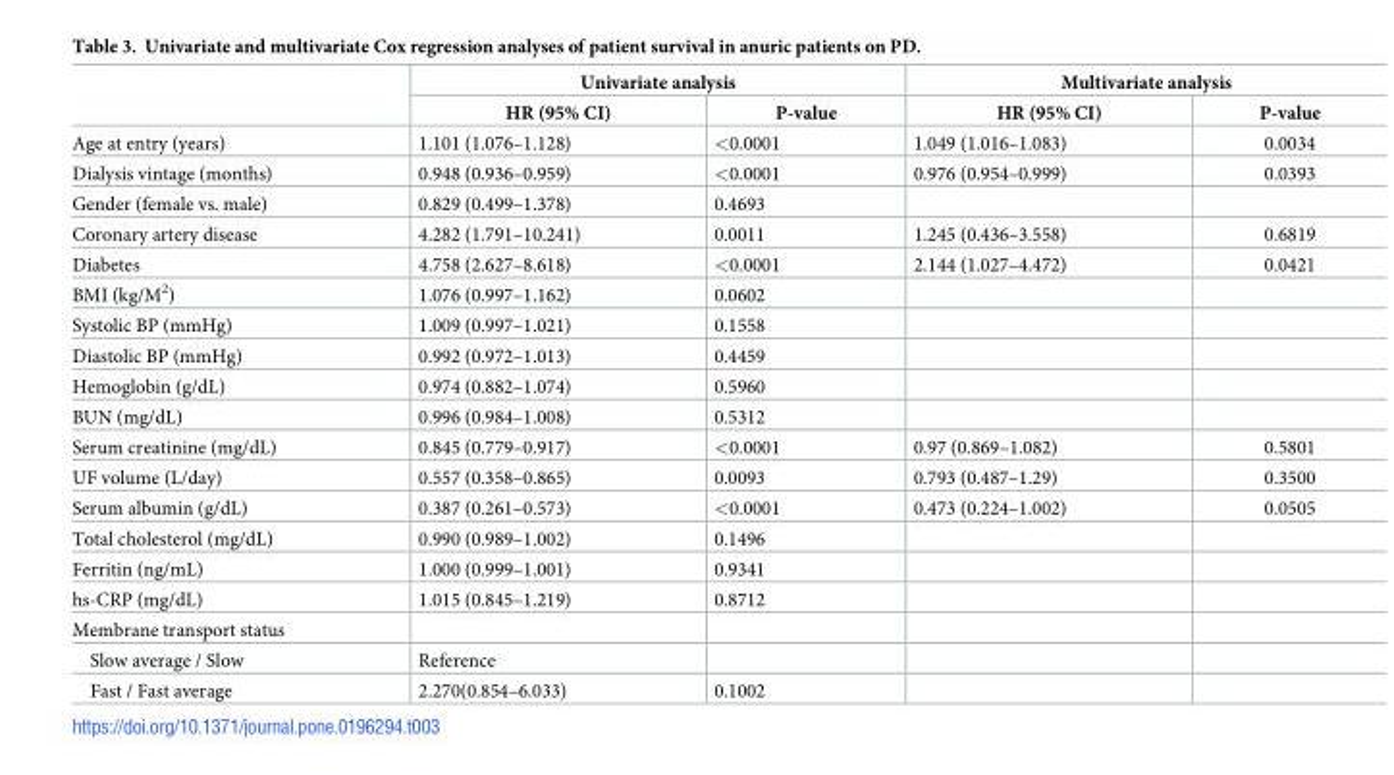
<table><thead><tr><td rowspan="2"></td><td colspan="2">Univariate analysis</td><td colspan="2">Multivariate analysis</td></tr><tr><td>HR (95% CI)</td><td>P-value</td><td>HR (95% CI)</td><td>P-value</td></tr></thead><tbody><tr><td>Age at entry (years)</td><td>1.101 (1.076–1.128)</td><td>&lt;0.0001</td><td>1.049 (1.016–1.083)</td><td>0.0034</td></tr><tr><td>Dialysis vintage (months)</td><td>0.948 (0.936–0.959)</td><td>&lt;0.0001</td><td>0.976 (0.954–0.999)</td><td>0.0393</td></tr><tr><td>Gender (female vs. male)</td><td>0.829 (0.499–1.378)</td><td>0.4693</td><td></td><td></td></tr><tr><td>Coronary artery disease</td><td>4.282 (1.791–10.241)</td><td>0.0011</td><td>1.245 (0.436–3.558)</td><td>0.6819</td></tr><tr><td>Diabetes</td><td>4.758 (2.627–8.618)</td><td>&lt;0.0001</td><td>2.144 (1.027–4.472)</td><td>0.0421</td></tr><tr><td>BMI (kg/M<sup>2</sup>)</td><td>1.076 (0.997–1.162)</td><td>0.0602</td><td></td><td></td></tr><tr><td>Systolic BP (mmHg)</td><td>1.009 (0.997–1.021)</td><td>0.1558</td><td></td><td></td></tr><tr><td>Diastolic BP (mmHg)</td><td>0.992 (0.972–1.013)</td><td>0.4459</td><td></td><td></td></tr><tr><td>Hemoglobin (g/dL)</td><td>0.974 (0.882–1.074)</td><td>0.5960</td><td></td><td></td></tr><tr><td>BUN (mg/dL)</td><td>0.996 (0.984–1.008)</td><td>0.5312</td><td></td><td></td></tr><tr><td>Serum creatinine (mg/dL)</td><td>0.845 (0.779–0.917)</td><td>&lt;0.0001</td><td>0.97 (0.869–1.082)</td><td>0.5801</td></tr><tr><td>UF volume (L/day)</td><td>0.557 (0.358–0.865)</td><td>0.0093</td><td>0.793 (0.487–1.29)</td><td>0.3500</td></tr><tr><td>Serum albumin (g/dL)</td><td>0.387 (0.261–0.573)</td><td>&lt;0.0001</td><td>0.473 (0.224–1.002)</td><td>0.0505</td></tr><tr><td>Total cholesterol (mg/dL)</td><td>0.990 (0.989–1.002)</td><td>0.1496</td><td></td><td></td></tr><tr><td>Ferritin (ng/mL)</td><td>1.000 (0.999–1.001)</td><td>0.9341</td><td></td><td></td></tr><tr><td>hs-CRP (mg/dL)</td><td>1.015 (0.845–1.219)</td><td>0.8712</td><td></td><td></td></tr><tr><td colspan="5">Membrane transport status</td></tr><tr><td>Slow average / Slow</td><td>Reference</td><td></td><td></td><td></td></tr><tr><td>Fast / Fast average</td><td>2.270(0.854–6.033)</td><td>0.1002</td><td></td><td></td></tr></tbody></table>